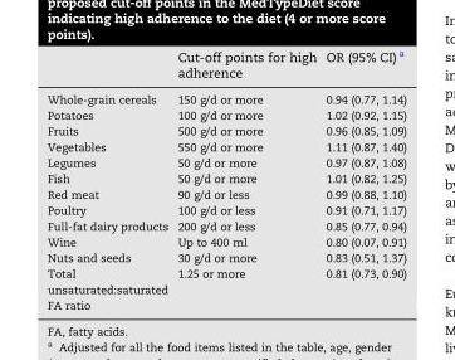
<table><thead><tr><td></td><td>Cut-off points for high adherence</td><td>OR (95% CI) <sup>a</sup></td></tr></thead><tbody><tr><td>Whole-grain cereals</td><td>150 g/d or more</td><td>0.94 (0.77, 1.14)</td></tr><tr><td>Potatoes</td><td>100 g/d or more</td><td>1.02 (0.92, 1.15)</td></tr><tr><td>Fruits</td><td>500 g/d or more</td><td>0.96 (0.85, 1.09)</td></tr><tr><td>Vegetables</td><td>550 g/d or more</td><td>1.11 (0.87, 1.40)</td></tr><tr><td>Legumes</td><td>50 g/d or more</td><td>0.97 (0.87, 1.08)</td></tr><tr><td>Fish</td><td>50 g/d or more</td><td>1.01 (0.82, 1.25)</td></tr><tr><td>Red meat</td><td>90 g/d or less</td><td>0.99 (0.88, 1.10)</td></tr><tr><td>Poultry</td><td>100 g/d or less</td><td>0.91 (0.71, 1.17)</td></tr><tr><td>Full-fat dairy products</td><td>200 g/d or less</td><td>0.85 (0.77, 0.94)</td></tr><tr><td>Wine</td><td>Up to 400 ml</td><td>0.80 (0.07, 0.91)</td></tr><tr><td>Nuts and seeds</td><td>30 g/d or more</td><td>0.83 (0.51, 1.37)</td></tr><tr><td>Total unsaturated:saturated</td><td>1.25 or more</td><td>0.81 (0.73, 0.90)</td></tr><tr><td>FA ratio</td><td></td><td></td></tr></tbody></table>